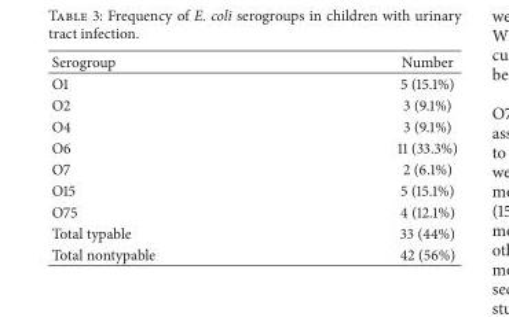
<table><thead><tr><td>Serogroup</td><td>Number</td></tr></thead><tbody><tr><td>O1</td><td>5 (15.1%)</td></tr><tr><td>O2</td><td>3 (9.1%)</td></tr><tr><td>O4</td><td>3 (9.1%)</td></tr><tr><td>O6</td><td>11 (33.3%)</td></tr><tr><td>O7</td><td>2 (6.1%)</td></tr><tr><td>O15</td><td>5 (15.1%)</td></tr><tr><td>O75</td><td>4 (12.1%)</td></tr><tr><td>Total typable</td><td>33 (44%)</td></tr><tr><td>Total nontypable</td><td>42 (56%)</td></tr></tbody></table>